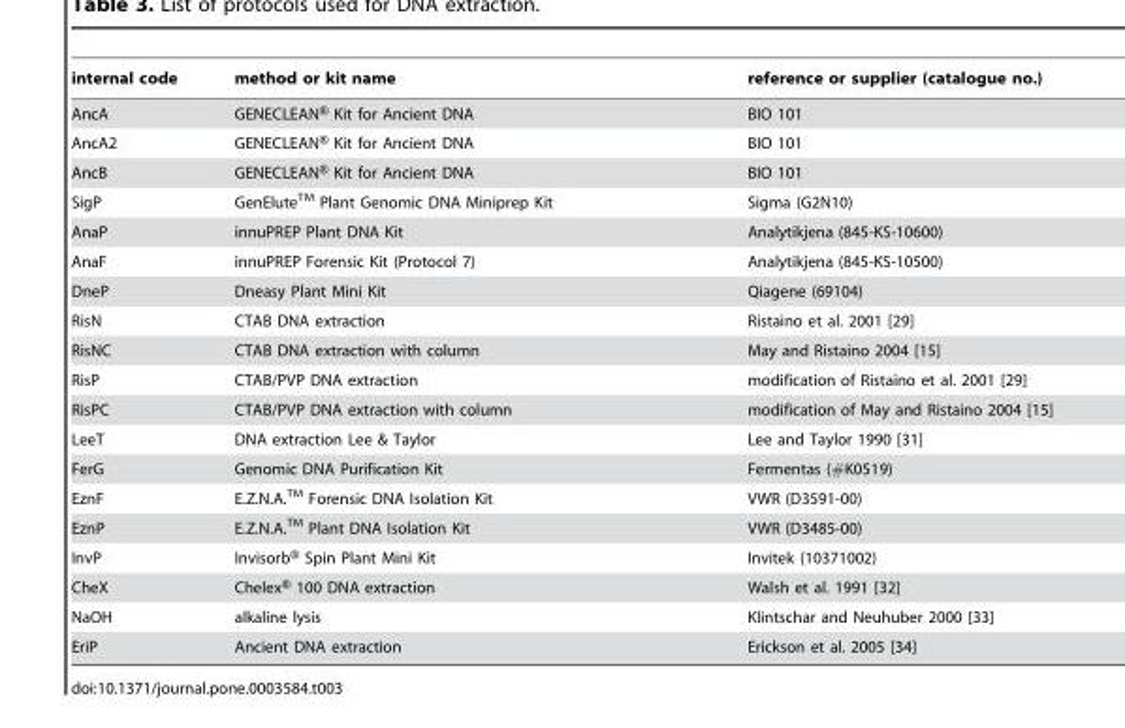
<table><thead><tr><td>internal code</td><td>method or kit name</td><td>reference or supplier (catalogue no.)</td></tr></thead><tbody><tr><td>AncA</td><td>GENECLEAN® Kit for Ancient DNA</td><td>BIO 101</td></tr><tr><td>AncA2</td><td>GENECLEAN® Kit for Ancient DNA</td><td>BIO 101</td></tr><tr><td>AncB</td><td>GENECLEAN® Kit for Ancient DNA</td><td>BIO 101</td></tr><tr><td>SigP</td><td>GenEluteTM Plant Genomic DNA Miniprep Kit</td><td>Sigma (G2N10)</td></tr><tr><td>AnaP</td><td>innuPREP Plant DNA Kit</td><td>Analytikjena (845-KS-10600)</td></tr><tr><td>AnaF</td><td>innuPREP Forensic Kit (Protocol 7)</td><td>Analytikjena (845-KS-10500)</td></tr><tr><td>DneP</td><td>Dneasy Plant Mini Kit</td><td>Qiagene (69104)</td></tr><tr><td>RisN</td><td>CTAB DNA extraction</td><td>Ristaino et al. 2001 [29]</td></tr><tr><td>RisNC</td><td>CTAB DNA extraction with column</td><td>May and Ristaino 2004 [15]</td></tr><tr><td>RisP</td><td>CTAB/PVP DNA extraction</td><td>modification of Ristaino et al. 2001 [29]</td></tr><tr><td>RisPC</td><td>CTAB/PVP DNA extraction with column</td><td>modification of May and Ristaino 2004 [15]</td></tr><tr><td>LeeT</td><td>DNA extraction Lee &amp; Taylor</td><td>Lee and Taylor 1990 [31]</td></tr><tr><td>FerG</td><td>Genomic DNA Purification Kit</td><td>Fermentas (#K0519)</td></tr><tr><td>EznF</td><td>E.Z.N.A.TM Forensic DNA Isolation Kit</td><td>VWR (D3591-00)</td></tr><tr><td>EznP</td><td>E.Z.N.A.TM Plant DNA Isolation Kit</td><td>VWR (D3485-00)</td></tr><tr><td>InvP</td><td>Invisorb® Spin Plant Mini Kit</td><td>Invitek (10371002)</td></tr><tr><td>CheX</td><td>Chelex® 100 DNA extraction</td><td>Walsh et al. 1991 [32]</td></tr><tr><td>NaOH</td><td>alkaline lysis</td><td>Klintschar and Neuhuber 2000 [33]</td></tr><tr><td>EriP</td><td>Ancient DNA extraction</td><td>Erickson et al. 2005 [34]</td></tr></tbody></table>